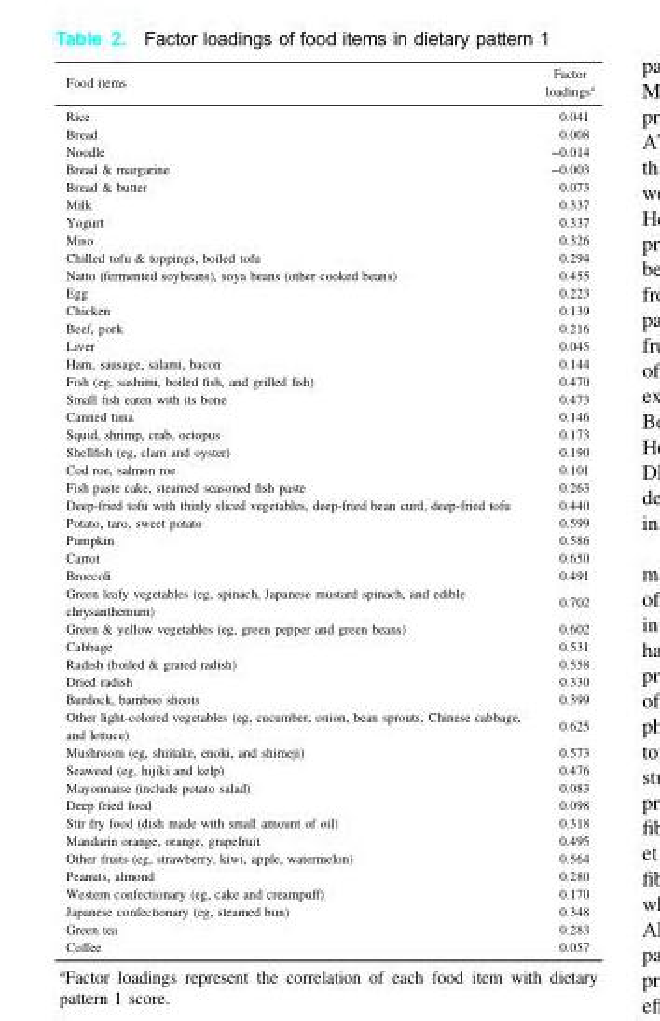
<table><thead><tr><td>Food items</td><td>Factor loadings<sup>a</sup></td></tr></thead><tbody><tr><td>Rice</td><td>0.041</td></tr><tr><td>Bread</td><td>0.008</td></tr><tr><td>Noodle</td><td>−0.014</td></tr><tr><td>Bread &amp; margarine</td><td>−0.003</td></tr><tr><td>Bread &amp; butter</td><td>0.073</td></tr><tr><td>Milk</td><td>0.337</td></tr><tr><td>Yogurt</td><td>0.337</td></tr><tr><td>Miso</td><td>0.326</td></tr><tr><td>Chilled tofu &amp; toppings, boiled tofu</td><td>0.294</td></tr><tr><td>Natto (fermented soybeans), soya beans (other cooked beans)</td><td>0.455</td></tr><tr><td>Egg</td><td>0.223</td></tr><tr><td>Chicken</td><td>0.139</td></tr><tr><td>Beef, pork</td><td>0.216</td></tr><tr><td>Liver</td><td>0.045</td></tr><tr><td>Ham, sausage, salami, bacon</td><td>0.144</td></tr><tr><td>Fish (eg, sashimi, boiled fish, and grilled fish)</td><td>0.470</td></tr><tr><td>Small fish eaten with its bone</td><td>0.473</td></tr><tr><td>Canned tuna</td><td>0.146</td></tr><tr><td>Squid, shrimp, crab, octopus</td><td>0.173</td></tr><tr><td>Shellfish (eg, clam and oyster)</td><td>0.190</td></tr><tr><td>Cod roe, salmon roe</td><td>0.101</td></tr><tr><td>Fish paste cake, steamed seasoned fish paste</td><td>0.263</td></tr><tr><td>Deep-fried tofu with thinly sliced vegetables, deep-fried bean curd, deep-fried tofu</td><td>0.440</td></tr><tr><td>Potato, taro, sweet potato</td><td>0.599</td></tr><tr><td>Pumpkin</td><td>0.586</td></tr><tr><td>Carrot</td><td>0.650</td></tr><tr><td>Broccoli</td><td>0.491</td></tr><tr><td>Green leafy vegetables (eg, spinach, Japanese mustard spinach, and edible chrysanthemum)</td><td>0.702</td></tr><tr><td>Green &amp; yellow vegetables (eg, green pepper and green beans)</td><td>0.602</td></tr><tr><td>Cabbage</td><td>0.531</td></tr><tr><td>Radish (boiled &amp; grated radish)</td><td>0.558</td></tr><tr><td>Dried radish</td><td>0.330</td></tr><tr><td>Burdock, bamboo shoots</td><td>0.399</td></tr><tr><td>Other light-colored vegetables (eg, cucumber, onion, bean sprouts, Chinese cabbage, and lettuce)</td><td>0.625</td></tr><tr><td>Mushroom (eg, shiitake, enoki, and shimeji)</td><td>0.573</td></tr><tr><td>Seaweed (eg, hijiki and kelp)</td><td>0.476</td></tr><tr><td>Mayonnaise (include potato salad)</td><td>0.083</td></tr><tr><td>Deep fried food</td><td>0.098</td></tr><tr><td>Stir fry food (dish made with small amount of oil)</td><td>0.318</td></tr><tr><td>Mandarin orange, orange, grapefruit</td><td>0.495</td></tr><tr><td>Other fruits (eg, strawberry, kiwi, apple, watermelon)</td><td>0.564</td></tr><tr><td>Peanuts, almond</td><td>0.280</td></tr><tr><td>Western confectionary (eg, cake and creampuff)</td><td>0.170</td></tr><tr><td>Japanese confectionary (eg, steamed bun)</td><td>0.348</td></tr><tr><td>Green tea</td><td>0.283</td></tr><tr><td>Coffee</td><td>0.057</td></tr></tbody></table>